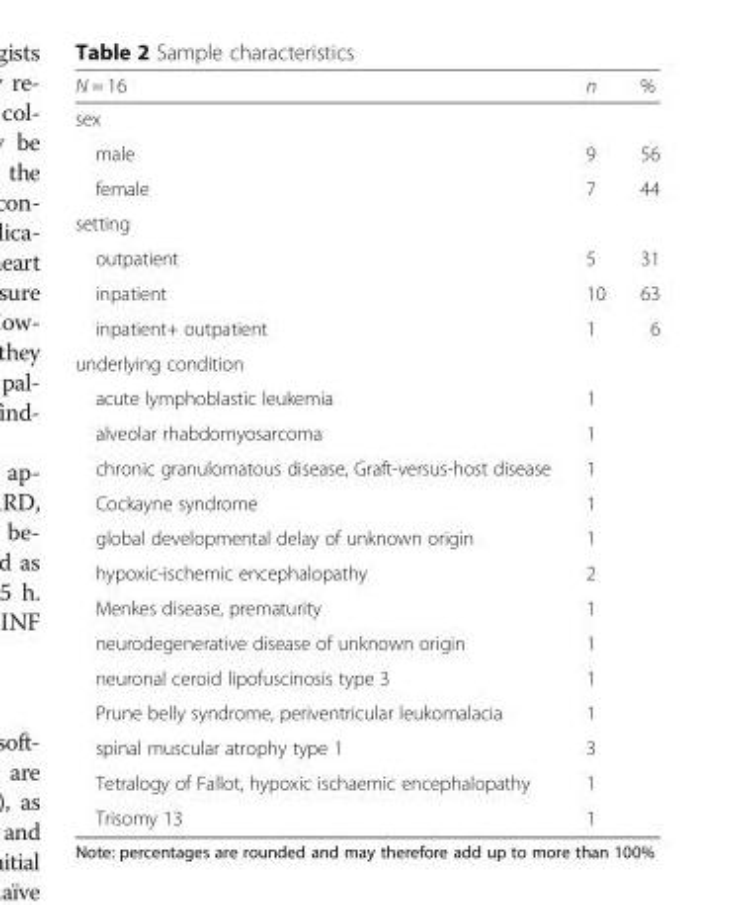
<table><thead><tr><td>N = 16</td><td>n</td><td>%</td></tr></thead><tbody><tr><td colspan="3">sex</td></tr><tr><td>male</td><td>9</td><td>56</td></tr><tr><td>female</td><td>7</td><td>44</td></tr><tr><td colspan="3">setting</td></tr><tr><td>outpatient</td><td>5</td><td>31</td></tr><tr><td>inpatient</td><td>10</td><td>63</td></tr><tr><td>inpatient+ outpatient</td><td>1</td><td>6</td></tr><tr><td colspan="3">underlying condition</td></tr><tr><td>acute lymphoblastic leukemia</td><td>1</td><td></td></tr><tr><td>alveolar rhabdomyosarcoma</td><td>1</td><td></td></tr><tr><td>chronic granulomatous disease, Graft-versus-host disease</td><td>1</td><td></td></tr><tr><td>Cockayne syndrome</td><td>1</td><td></td></tr><tr><td>global developmental delay of unknown origin</td><td>1</td><td></td></tr><tr><td>hypoxic-ischemic encephalopathy</td><td>2</td><td></td></tr><tr><td>Menkes disease, prematurity</td><td>1</td><td></td></tr><tr><td>neurodegenerative disease of unknown origin</td><td>1</td><td></td></tr><tr><td>neuronal ceroid lipofuscinosis type 3</td><td>1</td><td></td></tr><tr><td>Prune belly syndrome, periventricular leukomalacia</td><td>1</td><td></td></tr><tr><td>spinal muscular atrophy type 1</td><td>3</td><td></td></tr><tr><td>Tetralogy of Fallot, hypoxic ischaemic encephalopathy</td><td>1</td><td></td></tr><tr><td>Trisomy 13</td><td>1</td><td></td></tr></tbody></table>